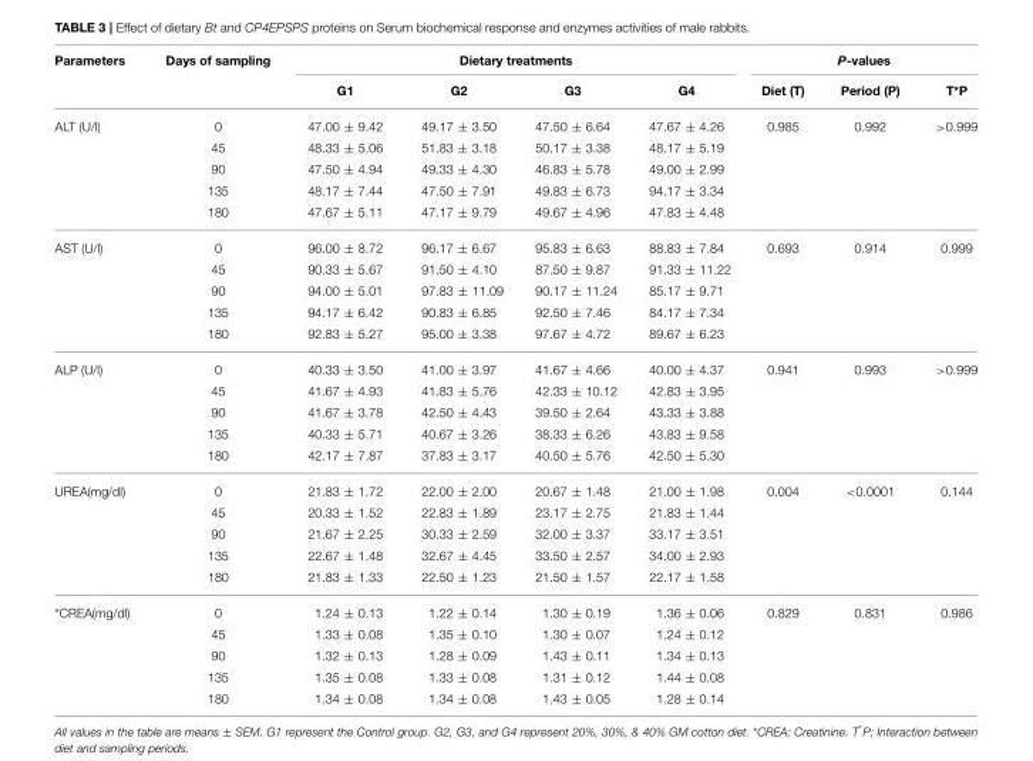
<table><thead><tr><td rowspan="2">Parameters</td><td rowspan="2">Days of sampling</td><td colspan="4">Dietary treatments</td><td colspan="3">P-values</td></tr><tr><td>G1</td><td>G2</td><td>G3</td><td>G4</td><td>Diet (T)</td><td>Period (P)</td><td>T*P</td></tr></thead><tbody><tr><td rowspan="5">ALT (U/l)</td><td>0</td><td>47.00 ± 9.42</td><td>49.17 ± 3.50</td><td>47.50 ± 6.64</td><td>47.67 ± 4.26</td><td>0.985</td><td>0.992</td><td>&gt;0.999</td></tr><tr><td>45</td><td>48.33 ± 5.06</td><td>51.83 ± 3.18</td><td>50.17 ± 3.38</td><td>48.17 ± 5.19</td><td></td><td></td><td></td></tr><tr><td>90</td><td>47.50 ± 4.94</td><td>49.33 ± 4.30</td><td>46.83 ± 5.78</td><td>49.00 ± 2.99</td><td></td><td></td><td></td></tr><tr><td>135</td><td>48.17 ± 7.44</td><td>47.50 ± 7.91</td><td>49.83 ± 6.73</td><td>94.17 ± 3.34</td><td></td><td></td><td></td></tr><tr><td>180</td><td>47.67 ± 5.11</td><td>47.17 ± 9.79</td><td>49.67 ± 4.96</td><td>47.83 ± 4.48</td><td></td><td></td><td></td></tr><tr><td rowspan="5">AST (U/l)</td><td>0</td><td>96.00 ± 8.72</td><td>96.17 ± 6.67</td><td>95.83 ± 6.63</td><td>88.83 ± 7.84</td><td>0.693</td><td>0.914</td><td>0.999</td></tr><tr><td>45</td><td>90.33 ± 5.67</td><td>91.50 ± 4.10</td><td>87.50 ± 9.87</td><td>91.33 ± 11.22</td><td></td><td></td><td></td></tr><tr><td>90</td><td>94.00 ± 5.01</td><td>97.83 ± 11.09</td><td>90.17 ± 11.24</td><td>85.17 ± 9.71</td><td></td><td></td><td></td></tr><tr><td>135</td><td>94.17 ± 6.42</td><td>90.83 ± 6.85</td><td>92.50 ± 7.46</td><td>84.17 ± 7.34</td><td></td><td></td><td></td></tr><tr><td>180</td><td>92.83 ± 5.27</td><td>95.00 ± 3.38</td><td>97.67 ± 4.72</td><td>89.67 ± 6.23</td><td></td><td></td><td></td></tr><tr><td rowspan="5">ALP (U/l)</td><td>0</td><td>40.33 ± 3.50</td><td>41.00 ± 3.97</td><td>41.67 ± 4.66</td><td>40.00 ± 4.37</td><td>0.941</td><td>0.993</td><td>&gt;0.999</td></tr><tr><td>45</td><td>41.67 ± 4.93</td><td>41.83 ± 5.76</td><td>42.33 ± 10.12</td><td>42.83 ± 3.95</td><td></td><td></td><td></td></tr><tr><td>90</td><td>41.67 ± 3.78</td><td>42.50 ± 4.43</td><td>39.50 ± 2.64</td><td>43.33 ± 3.88</td><td></td><td></td><td></td></tr><tr><td>135</td><td>40.33 ± 5.71</td><td>40.67 ± 3.26</td><td>38.33 ± 6.26</td><td>43.83 ± 9.58</td><td></td><td></td><td></td></tr><tr><td>180</td><td>42.17 ± 7.87</td><td>37.83 ± 3.17</td><td>40.50 ± 5.76</td><td>42.50 ± 5.30</td><td></td><td></td><td></td></tr><tr><td rowspan="5">UREA(mg/dl)</td><td>0</td><td>21.83 ± 1.72</td><td>22.00 ± 2.00</td><td>20.67 ± 1.48</td><td>21.00 ± 1.98</td><td>0.004</td><td>&lt;0.0001</td><td>0.144</td></tr><tr><td>45</td><td>20.33 ± 1.52</td><td>22.83 ± 1.89</td><td>23.17 ± 2.75</td><td>21.83 ± 1.44</td><td></td><td></td><td></td></tr><tr><td>90</td><td>21.67 ± 2.25</td><td>30.33 ± 2.59</td><td>32.00 ± 3.37</td><td>33.17 ± 3.51</td><td></td><td></td><td></td></tr><tr><td>135</td><td>22.67 ± 1.48</td><td>32.67 ± 4.45</td><td>33.50 ± 2.57</td><td>34.00 ± 2.93</td><td></td><td></td><td></td></tr><tr><td>180</td><td>21.83 ± 1.33</td><td>22.50 ± 1.23</td><td>21.50 ± 1.57</td><td>22.17 ± 1.58</td><td></td><td></td><td></td></tr><tr><td rowspan="5">*CREA(mg/dl)</td><td>0</td><td>1.24 ± 0.13</td><td>1.22 ± 0.14</td><td>1.30 ± 0.19</td><td>1.36 ± 0.06</td><td>0.829</td><td>0.831</td><td>0.986</td></tr><tr><td>45</td><td>1.33 ± 0.08</td><td>1.35 ± 0.10</td><td>1.30 ± 0.07</td><td>1.24 ± 0.12</td><td></td><td></td><td></td></tr><tr><td>90</td><td>1.32 ± 0.13</td><td>1.28 ± 0.09</td><td>1.43 ± 0.11</td><td>1.34 ± 0.13</td><td></td><td></td><td></td></tr><tr><td>135</td><td>1.35 ± 0.08</td><td>1.33 ± 0.08</td><td>1.31 ± 0.12</td><td>1.44 ± 0.08</td><td></td><td></td><td></td></tr><tr><td>180</td><td>1.34 ± 0.08</td><td>1.34 ± 0.08</td><td>1.43 ± 0.05</td><td>1.28 ± 0.14</td><td></td><td></td><td></td></tr></tbody></table>